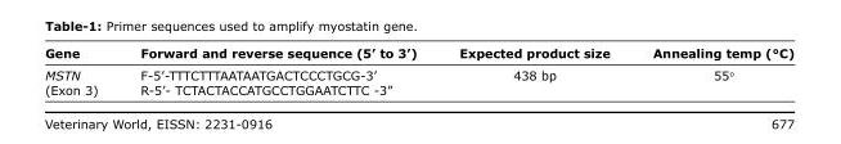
<table><thead><tr><td>Gene</td><td>Forward and reverse sequence (5’ to 3’)</td><td>Expected product size</td><td>Annealing temp (°C)</td></tr></thead><tbody><tr><td>MSTN (Exon 3)</td><td>F-5’-TTTCTTTAATAATGACTCCCTGCG-3’ R-5’- TCTACTACCATGCCTGGAATCTTC -3”</td><td>438 bp</td><td>55°</td></tr></tbody></table>